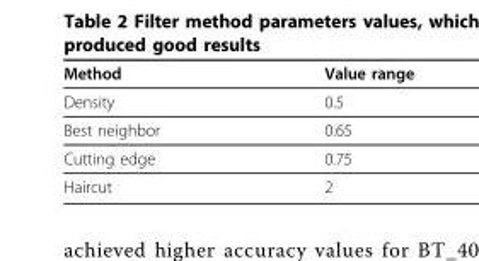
<table><thead><tr><td>Method</td><td>Value range</td></tr></thead><tbody><tr><td>Density</td><td>0.5</td></tr><tr><td>Best neighbor</td><td>0.65</td></tr><tr><td>Cutting edge</td><td>0.75</td></tr><tr><td>Haircut</td><td>2</td></tr></tbody></table>